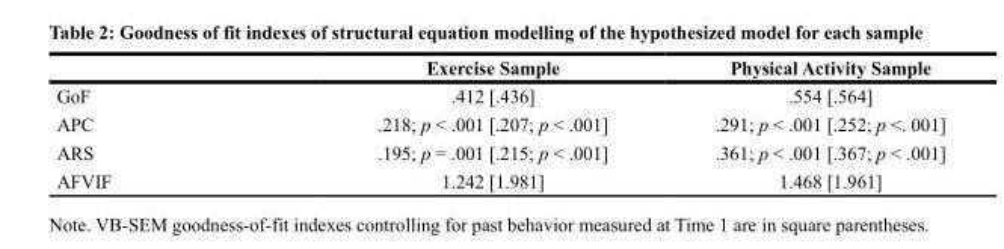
<table><thead><tr><td></td><td>Exercise Sample</td><td>Physical Activity Sample</td></tr></thead><tbody><tr><td>GoF</td><td>.412 [.436]</td><td>.554 [.564]</td></tr><tr><td>APC</td><td>.218; p &lt; .001 [.207; p &lt; .001]</td><td>.291; p &lt; .001 [.252; p &lt;. 001]</td></tr><tr><td>ARS</td><td>.195; p = .001 [.215; p &lt; .001]</td><td>.361; p &lt; .001 [.367; p &lt; .001]</td></tr><tr><td>AFVIF</td><td>1.242 [1.981]</td><td>1.468 [1.961]</td></tr></tbody></table>